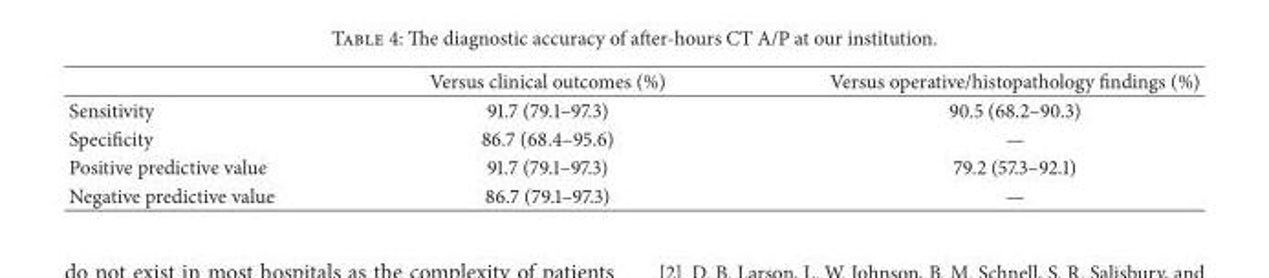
<table><thead><tr><td></td><td>Versus clinical outcomes (%)</td><td>Versus operative/histopathology findings (%)</td></tr></thead><tbody><tr><td>Sensitivity</td><td>91.7 (79.1–97.3)</td><td>90.5 (68.2–90.3)</td></tr><tr><td>Specificity</td><td>86.7 (68.4–95.6)</td><td>—</td></tr><tr><td>Positive predictive value</td><td>91.7 (79.1–97.3)</td><td>79.2 (57.3–92.1)</td></tr><tr><td>Negative predictive value</td><td>86.7 (79.1–97.3)</td><td>—</td></tr></tbody></table>